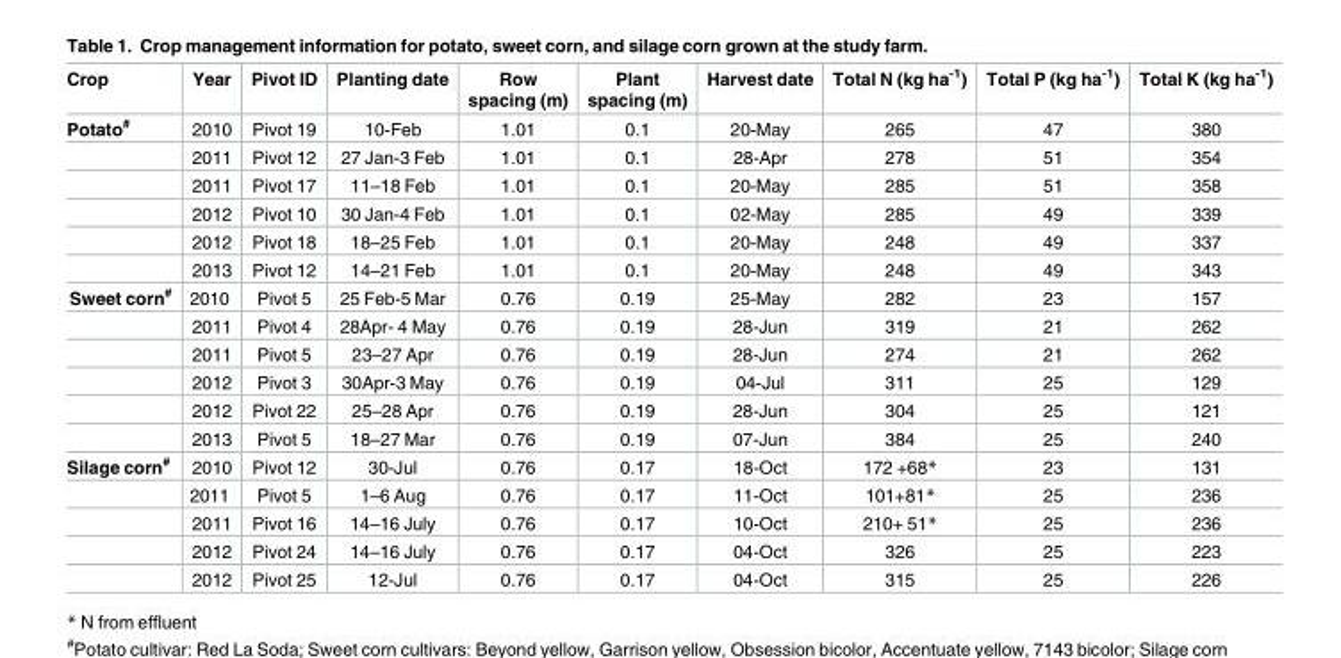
<table><thead><tr><td>Crop</td><td>Year</td><td>Pivot ID</td><td>Planting date</td><td>Row spacing (m)</td><td>Plant spacing (m)</td><td>Harvest date</td><td>Total N (kg ha<sup>-1</sup>)</td><td>Total P (kg ha<sup>-1</sup>)</td><td>Total K (kg ha<sup>-1</sup>)</td></tr></thead><tbody><tr><td rowspan="6">Potato<sup>#</sup></td><td>2010</td><td>Pivot 19</td><td>10-Feb</td><td>1.01</td><td>0.1</td><td>20-May</td><td>265</td><td>47</td><td>380</td></tr><tr><td>2011</td><td>Pivot 12</td><td>27 Jan-3 Feb</td><td>1.01</td><td>0.1</td><td>28-Apr</td><td>278</td><td>51</td><td>354</td></tr><tr><td>2011</td><td>Pivot 17</td><td>11–18 Feb</td><td>1.01</td><td>0.1</td><td>20-May</td><td>285</td><td>51</td><td>358</td></tr><tr><td>2012</td><td>Pivot 10</td><td>30 Jan-4 Feb</td><td>1.01</td><td>0.1</td><td>02-May</td><td>285</td><td>49</td><td>339</td></tr><tr><td>2012</td><td>Pivot 18</td><td>18–25 Feb</td><td>1.01</td><td>0.1</td><td>20-May</td><td>248</td><td>49</td><td>337</td></tr><tr><td>2013</td><td>Pivot 12</td><td>14–21 Feb</td><td>1.01</td><td>0.1</td><td>20-May</td><td>248</td><td>49</td><td>343</td></tr><tr><td rowspan="6">Sweet corn<sup>#</sup></td><td>2010</td><td>Pivot 5</td><td>25 Feb-5 Mar</td><td>0.76</td><td>0.19</td><td>25-May</td><td>282</td><td>23</td><td>157</td></tr><tr><td>2011</td><td>Pivot 4</td><td>28Apr- 4 May</td><td>0.76</td><td>0.19</td><td>28-Jun</td><td>319</td><td>21</td><td>262</td></tr><tr><td>2011</td><td>Pivot 5</td><td>23–27 Apr</td><td>0.76</td><td>0.19</td><td>28-Jun</td><td>274</td><td>21</td><td>262</td></tr><tr><td>2012</td><td>Pivot 3</td><td>30Apr-3 May</td><td>0.76</td><td>0.19</td><td>04-Jul</td><td>311</td><td>25</td><td>129</td></tr><tr><td>2012</td><td>Pivot 22</td><td>25–28 Apr</td><td>0.76</td><td>0.19</td><td>28-Jun</td><td>304</td><td>25</td><td>121</td></tr><tr><td>2013</td><td>Pivot 5</td><td>18–27 Mar</td><td>0.76</td><td>0.19</td><td>07-Jun</td><td>384</td><td>25</td><td>240</td></tr><tr><td rowspan="5">Silage corn<sup>#</sup></td><td>2010</td><td>Pivot 12</td><td>30-Jul</td><td>0.76</td><td>0.17</td><td>18-Oct</td><td>172 +68*</td><td>23</td><td>131</td></tr><tr><td>2011</td><td>Pivot 5</td><td>1–6 Aug</td><td>0.76</td><td>0.17</td><td>11-Oct</td><td>101+81*</td><td>25</td><td>236</td></tr><tr><td>2011</td><td>Pivot 16</td><td>14–16 July</td><td>0.76</td><td>0.17</td><td>10-Oct</td><td>210+ 51*</td><td>25</td><td>236</td></tr><tr><td>2012</td><td>Pivot 24</td><td>14–16 July</td><td>0.76</td><td>0.17</td><td>04-Oct</td><td>326</td><td>25</td><td>223</td></tr><tr><td>2012</td><td>Pivot 25</td><td>12-Jul</td><td>0.76</td><td>0.17</td><td>04-Oct</td><td>315</td><td>25</td><td>226</td></tr></tbody></table>